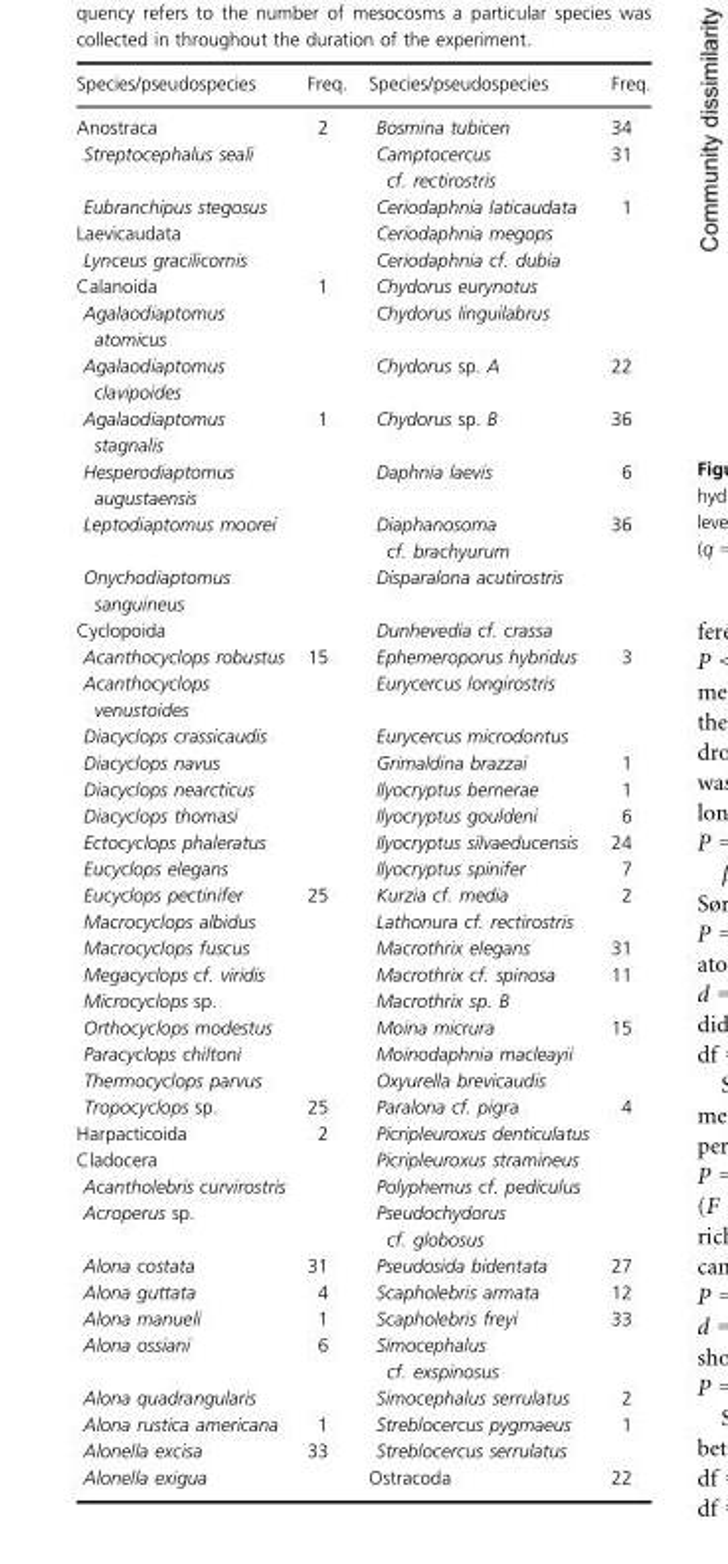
<table><thead><tr><td>Species/pseudospecies</td><td>Freq.</td><td>Species/pseudospecies</td><td>Freq.</td></tr></thead><tbody><tr><td>Anostraca</td><td>2</td><td>Bosmina tubicen</td><td>34</td></tr><tr><td>Streptocephalus seali</td><td></td><td>Camptocercus cf. rectirostris</td><td>31</td></tr><tr><td>Eubranchipus stegosus</td><td></td><td>Ceriodaphnia laticaudata</td><td>1</td></tr><tr><td>Laevicaudata</td><td></td><td>Ceriodaphnia megops</td><td></td></tr><tr><td>Lynceus gracilicornis</td><td></td><td>Ceriodaphnia cf. dubia</td><td></td></tr><tr><td>Calanoida</td><td>1</td><td>Chydorus eurynotus</td><td></td></tr><tr><td>Agalaodiaptomus atomicus</td><td></td><td>Chydorus linguilabrus</td><td></td></tr><tr><td>Agalaodiaptomus clavipoides</td><td></td><td>Chydorus sp. A</td><td>22</td></tr><tr><td>Agalaodiaptomus stagnalis</td><td>1</td><td>Chydorus sp. B</td><td>36</td></tr><tr><td>Hesperodiaptomus augustaensis</td><td></td><td>Daphnia laevis</td><td>6</td></tr><tr><td>Leptodiaptomus moorei</td><td></td><td>Diaphanosoma cf. brachyurum</td><td>36</td></tr><tr><td>Onychodiaptomus sanguineus</td><td></td><td>Disparalona acutirostris</td><td></td></tr><tr><td>Cyclopoida</td><td></td><td>Dunhevedia cf. crassa</td><td></td></tr><tr><td>Acanthocyclops robustus</td><td>15</td><td>Ephemeroporus hybridus</td><td>3</td></tr><tr><td>Acanthocyclops venustoides</td><td></td><td>Eurycercus longirostris</td><td></td></tr><tr><td>Diacyclops crassicaudis</td><td></td><td>Eurycercus microdontus</td><td></td></tr><tr><td>Diacyclops navus</td><td></td><td>Grimaldina brazzai</td><td>1</td></tr><tr><td>Diacyclops nearcticus</td><td></td><td>Ilyocryptus bernerae</td><td>1</td></tr><tr><td>Diacyclops thomasi</td><td></td><td>Ilyocryptus gouldeni</td><td>6</td></tr><tr><td>Ectocyclops phaleratus</td><td></td><td>Ilyocryptus silvaeducensis</td><td>24</td></tr><tr><td>Eucyclops elegans</td><td></td><td>Ilyocryptus spinifer</td><td>7</td></tr><tr><td>Eucyclops pectinifer</td><td>25</td><td>Kurzia cf. media</td><td>2</td></tr><tr><td>Macrocyclops albidus</td><td></td><td>Lathonura cf. rectirostris</td><td></td></tr><tr><td>Macrocyclops fuscus</td><td></td><td>Macrothrix elegans</td><td>31</td></tr><tr><td>Megacyclops cf. viridis</td><td></td><td>Macrothrix cf. spinosa</td><td>11</td></tr><tr><td>Microcyclops sp.</td><td></td><td>Macrothrix sp. B</td><td></td></tr><tr><td>Orthocyclops modestus</td><td></td><td>Moina micrura</td><td>15</td></tr><tr><td>Paracyclops chiltoni</td><td></td><td>Moinodaphnia macleayii</td><td></td></tr><tr><td>Thermocyclops parvus</td><td></td><td>Oxyurella brevicaudis</td><td></td></tr><tr><td>Tropocyclops sp.</td><td>25</td><td>Paralona cf. pigra</td><td>4</td></tr><tr><td>Harpacticoida</td><td>2</td><td>Picripleuroxus denticulatus</td><td></td></tr><tr><td>Cladocera</td><td></td><td>Picripleuroxus stramineus</td><td></td></tr><tr><td>Acantholebris curvirostris</td><td></td><td>Polyphemus cf. pediculus</td><td></td></tr><tr><td>Acroperus sp.</td><td></td><td>Pseudochydorus cf. globosus</td><td></td></tr><tr><td>Alona costata</td><td>31</td><td>Pseudosida bidentata</td><td>27</td></tr><tr><td>Alona guttata</td><td>4</td><td>Scapholebris armata</td><td>12</td></tr><tr><td>Alona manueli</td><td>1</td><td>Scapholebris freyi</td><td>33</td></tr><tr><td>Alona ossiani</td><td>6</td><td>Simocephalus cf. exspinosus</td><td></td></tr><tr><td>Alona quadrangularis</td><td></td><td>Simocephalus serrulatus</td><td>2</td></tr><tr><td>Alona rustica americana</td><td>1</td><td>Streblocercus pygmaeus</td><td>1</td></tr><tr><td>Alonella excisa</td><td>33</td><td>Streblocercus serrulatus</td><td></td></tr><tr><td>Alonella exigua</td><td></td><td>Ostracoda</td><td>22</td></tr></tbody></table>